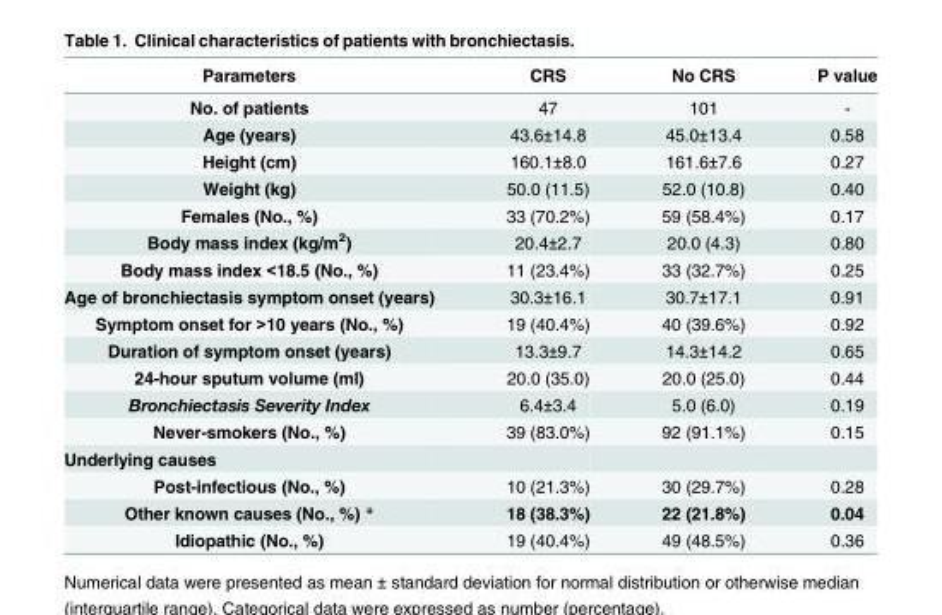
<table><thead><tr><td>Parameters</td><td>CRS</td><td>No CRS</td><td>P value</td></tr></thead><tbody><tr><td>No. of patients</td><td>47</td><td>101</td><td>-</td></tr><tr><td>Age (years)</td><td>43.6±14.8</td><td>45.0±13.4</td><td>0.58</td></tr><tr><td>Height (cm)</td><td>160.1±8.0</td><td>161.6±7.6</td><td>0.27</td></tr><tr><td>Weight (kg)</td><td>50.0 (11.5)</td><td>52.0 (10.8)</td><td>0.40</td></tr><tr><td>Females (No., %)</td><td>33 (70.2%)</td><td>59 (58.4%)</td><td>0.17</td></tr><tr><td>Body mass index (kg/m<sup>2</sup>)</td><td>20.4±2.7</td><td>20.0 (4.3)</td><td>0.80</td></tr><tr><td>Body mass index &lt;18.5 (No., %)</td><td>11 (23.4%)</td><td>33 (32.7%)</td><td>0.25</td></tr><tr><td>Age of bronchiectasis symptom onset (years)</td><td>30.3±16.1</td><td>30.7±17.1</td><td>0.91</td></tr><tr><td>Symptom onset for &gt;10 years (No., %)</td><td>19 (40.4%)</td><td>40 (39.6%)</td><td>0.92</td></tr><tr><td>Duration of symptom onset (years)</td><td>13.3±9.7</td><td>14.3±14.2</td><td>0.65</td></tr><tr><td>24-hour sputum volume (ml)</td><td>20.0 (35.0)</td><td>20.0 (25.0)</td><td>0.44</td></tr><tr><td>Bronchiectasis Severity Index</td><td>6.4±3.4</td><td>5.0 (6.0)</td><td>0.19</td></tr><tr><td>Never-smokers (No., %)</td><td>39 (83.0%)</td><td>92 (91.1%)</td><td>0.15</td></tr><tr><td colspan="4">Underlying causes</td></tr><tr><td>Post-infectious (No., %)</td><td>10 (21.3%)</td><td>30 (29.7%)</td><td>0.28</td></tr><tr><td>Other known causes (No., %) *</td><td>18 (38.3%)</td><td>22 (21.8%)</td><td>0.04</td></tr><tr><td>Idiopathic (No., %)</td><td>19 (40.4%)</td><td>49 (48.5%)</td><td>0.36</td></tr></tbody></table>